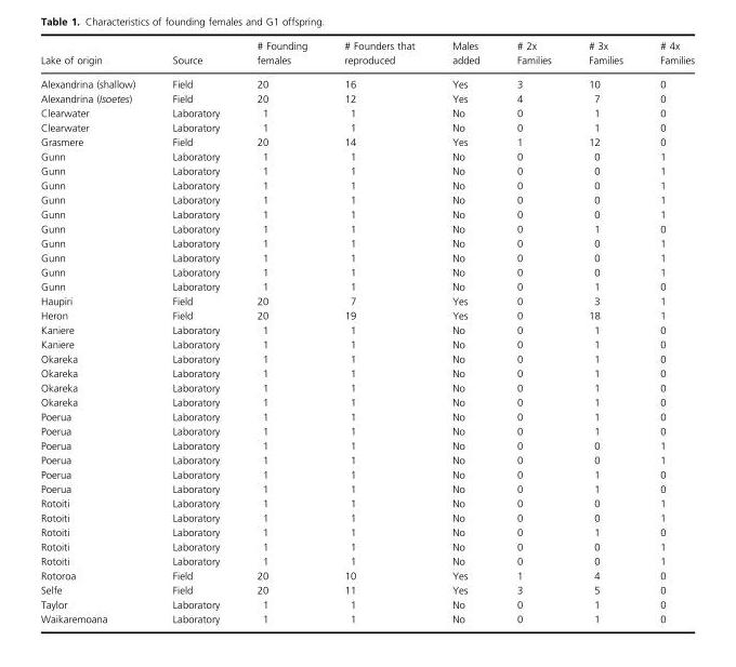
<table><thead><tr><td>Lake of origin</td><td>Source</td><td># Founding females</td><td># Founders that reproduced</td><td>Males added</td><td># 2x Families</td><td># 3x Families</td><td># 4x Families</td></tr></thead><tbody><tr><td>Alexandrina (shallow)</td><td>Field</td><td>20</td><td>16</td><td>Yes</td><td>3</td><td>10</td><td>0</td></tr><tr><td>Alexandrina (Isoetes)</td><td>Field</td><td>20</td><td>12</td><td>Yes</td><td>4</td><td>7</td><td>0</td></tr><tr><td>Clearwater</td><td>Laboratory</td><td>1</td><td>1</td><td>No</td><td>0</td><td>1</td><td>0</td></tr><tr><td>Clearwater</td><td>Laboratory</td><td>1</td><td>1</td><td>No</td><td>0</td><td>1</td><td>0</td></tr><tr><td>Grasmere</td><td>Field</td><td>20</td><td>14</td><td>Yes</td><td>1</td><td>12</td><td>0</td></tr><tr><td>Gunn</td><td>Laboratory</td><td>1</td><td>1</td><td>No</td><td>0</td><td>0</td><td>1</td></tr><tr><td>Gunn</td><td>Laboratory</td><td>1</td><td>1</td><td>No</td><td>0</td><td>0</td><td>1</td></tr><tr><td>Gunn</td><td>Laboratory</td><td>1</td><td>1</td><td>No</td><td>0</td><td>0</td><td>1</td></tr><tr><td>Gunn</td><td>Laboratory</td><td>1</td><td>1</td><td>No</td><td>0</td><td>0</td><td>1</td></tr><tr><td>Gunn</td><td>Laboratory</td><td>1</td><td>1</td><td>No</td><td>0</td><td>0</td><td>1</td></tr><tr><td>Gunn</td><td>Laboratory</td><td>1</td><td>1</td><td>No</td><td>0</td><td>1</td><td>0</td></tr><tr><td>Gunn</td><td>Laboratory</td><td>1</td><td>1</td><td>No</td><td>0</td><td>0</td><td>1</td></tr><tr><td>Gunn</td><td>Laboratory</td><td>1</td><td>1</td><td>No</td><td>0</td><td>0</td><td>1</td></tr><tr><td>Gunn</td><td>Laboratory</td><td>1</td><td>1</td><td>No</td><td>0</td><td>0</td><td>1</td></tr><tr><td>Gunn</td><td>Laboratory</td><td>1</td><td>1</td><td>No</td><td>0</td><td>1</td><td>0</td></tr><tr><td>Haupiri</td><td>Field</td><td>20</td><td>7</td><td>Yes</td><td>0</td><td>3</td><td>1</td></tr><tr><td>Heron</td><td>Field</td><td>20</td><td>19</td><td>Yes</td><td>0</td><td>18</td><td>1</td></tr><tr><td>Kaniere</td><td>Laboratory</td><td>1</td><td>1</td><td>No</td><td>0</td><td>1</td><td>0</td></tr><tr><td>Kaniere</td><td>Laboratory</td><td>1</td><td>1</td><td>No</td><td>0</td><td>1</td><td>0</td></tr><tr><td>Okareka</td><td>Laboratory</td><td>1</td><td>1</td><td>No</td><td>0</td><td>1</td><td>0</td></tr><tr><td>Okareka</td><td>Laboratory</td><td>1</td><td>1</td><td>No</td><td>0</td><td>1</td><td>0</td></tr><tr><td>Okareka</td><td>Laboratory</td><td>1</td><td>1</td><td>No</td><td>0</td><td>1</td><td>0</td></tr><tr><td>Okareka</td><td>Laboratory</td><td>1</td><td>1</td><td>No</td><td>0</td><td>1</td><td>0</td></tr><tr><td>Poerua</td><td>Laboratory</td><td>1</td><td>1</td><td>No</td><td>0</td><td>1</td><td>0</td></tr><tr><td>Poerua</td><td>Laboratory</td><td>1</td><td>1</td><td>No</td><td>0</td><td>1</td><td>0</td></tr><tr><td>Poerua</td><td>Laboratory</td><td>1</td><td>1</td><td>No</td><td>0</td><td>0</td><td>1</td></tr><tr><td>Poerua</td><td>Laboratory</td><td>1</td><td>1</td><td>No</td><td>0</td><td>0</td><td>1</td></tr><tr><td>Poerua</td><td>Laboratory</td><td>1</td><td>1</td><td>No</td><td>0</td><td>1</td><td>0</td></tr><tr><td>Poerua</td><td>Laboratory</td><td>1</td><td>1</td><td>No</td><td>0</td><td>1</td><td>0</td></tr><tr><td>Rotoiti</td><td>Laboratory</td><td>1</td><td>1</td><td>No</td><td>0</td><td>0</td><td>1</td></tr><tr><td>Rotoiti</td><td>Laboratory</td><td>1</td><td>1</td><td>No</td><td>0</td><td>0</td><td>1</td></tr><tr><td>Rotoiti</td><td>Laboratory</td><td>1</td><td>1</td><td>No</td><td>0</td><td>1</td><td>0</td></tr><tr><td>Rotoiti</td><td>Laboratory</td><td>1</td><td>1</td><td>No</td><td>0</td><td>0</td><td>1</td></tr><tr><td>Rotoiti</td><td>Laboratory</td><td>1</td><td>1</td><td>No</td><td>0</td><td>0</td><td>1</td></tr><tr><td>Rotoroa</td><td>Field</td><td>20</td><td>10</td><td>Yes</td><td>1</td><td>4</td><td>0</td></tr><tr><td>Selfe</td><td>Field</td><td>20</td><td>11</td><td>Yes</td><td>3</td><td>5</td><td>0</td></tr><tr><td>Taylor</td><td>Laboratory</td><td>1</td><td>1</td><td>No</td><td>0</td><td>1</td><td>0</td></tr><tr><td>Waikaremoana</td><td>Laboratory</td><td>1</td><td>1</td><td>No</td><td>0</td><td>1</td><td>0</td></tr></tbody></table>